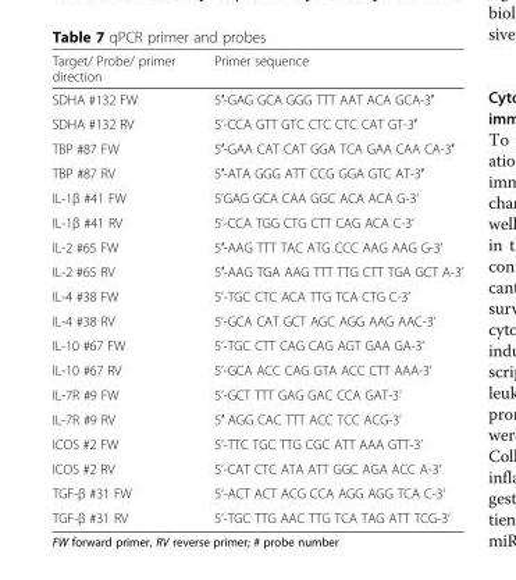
<table><thead><tr><td>Target/ Probe/ primer direction</td><td>Primer sequence</td></tr></thead><tbody><tr><td>SDHA #132 FW</td><td>5′-GAG GCA GGG TTT AAT ACA GCA-3′</td></tr><tr><td>SDHA #132 RV</td><td>5’-CCA GTT GTC CTC CTC CAT GT-3′</td></tr><tr><td>TBP #87 FW</td><td>5′-GAA CAT CAT GGA TCA GAA CAA CA-3′</td></tr><tr><td>TBP #87 RV</td><td>5′-ATA GGG ATT CCG GGA GTC AT-3′</td></tr><tr><td>IL-1β #41 FW</td><td>5’GAG GCA CAA GGC ACA ACA G-3‘</td></tr><tr><td>IL-1β #41 RV</td><td>5‘-CCA TGG CTG CTT CAG ACA C-3’</td></tr><tr><td>IL-2 #65 FW</td><td>5′-AAG TTT TAC ATG CCC AAG AAG G-3’</td></tr><tr><td>IL-2 #65 RV</td><td>5′-AAG TGA AAG TTT TTG CTT TGA GCT A-3’</td></tr><tr><td>IL-4 #38 FW</td><td>5’-TGC CTC ACA TTG TCA CTG C-3’</td></tr><tr><td>IL-4 #38 RV</td><td>5’-GCA CAT GCT AGC AGG AAG AAC-3’</td></tr><tr><td>IL-10 #67 FW</td><td>5’-TGC CTT CAG CAG AGT GAA GA-3’</td></tr><tr><td>IL-10 #67 RV</td><td>5’-GCA ACC CAG GTA ACC CTT AAA-3’</td></tr><tr><td>IL-7R #9 FW</td><td>5’-GCT TTT GAG GAC CCA GAT-3’</td></tr><tr><td>IL-7R #9 RV</td><td>5′ AGG CAC TTT ACC TCC ACG-3’</td></tr><tr><td>ICOS #2 FW</td><td>5’-TTC TGC TTG CGC ATT AAA GTT-3’</td></tr><tr><td>ICOS #2 RV</td><td>5’-CAT CTC ATA ATT GGC AGA ACC A-3’</td></tr><tr><td>TGF-β #31 FW</td><td>5‘-ACT ACT ACG CCA AGG AGG TCA C-3‘</td></tr><tr><td>TGF-β #31 RV</td><td>5‘-TGC TTG AAC TTG TCA TAG ATT TCG-3‘</td></tr></tbody></table>